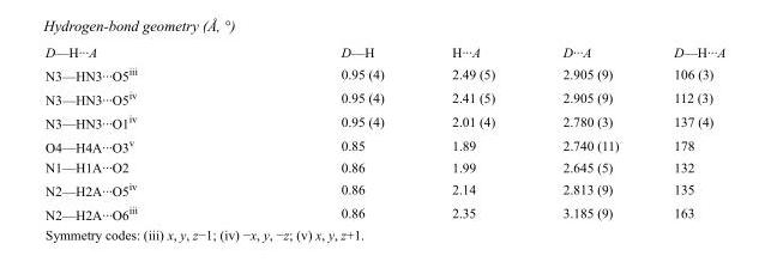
<table><tbody><tr><td>D—H···A</td><td>D—H</td><td>H···A</td><td>D···A</td><td>D—H···A</td></tr><tr><td>N3—HN3···O5<sup>iii</sup></td><td>0.95 (4)</td><td>2.49 (5)</td><td>2.905 (9)</td><td>106 (3)</td></tr><tr><td>N3—HN3···O5<sup>iv</sup></td><td>0.95 (4)</td><td>2.41 (5)</td><td>2.905 (9)</td><td>112 (3)</td></tr><tr><td>N3—HN3···O1<sup>iv</sup></td><td>0.95 (4)</td><td>2.01 (4)</td><td>2.780 (3)</td><td>137 (4)</td></tr><tr><td>O4—H4A···O3<sup>v</sup></td><td>0.85</td><td>1.89</td><td>2.740 (11)</td><td>178</td></tr><tr><td>N1—H1A···O2</td><td>0.86</td><td>1.99</td><td>2.645 (5)</td><td>132</td></tr><tr><td>N2—H2A···O5<sup>iv</sup></td><td>0.86</td><td>2.14</td><td>2.813 (9)</td><td>135</td></tr><tr><td>N2—H2A···O6<sup>iii</sup></td><td>0.86</td><td>2.35</td><td>3.185 (9)</td><td>163</td></tr></tbody></table>